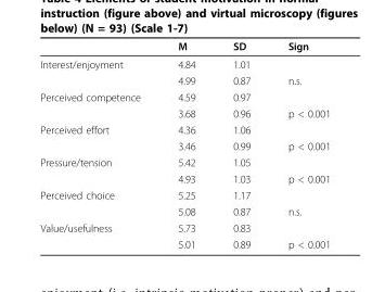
<table><thead><tr><td></td><td>M</td><td>SD</td><td>Sign</td></tr></thead><tbody><tr><td rowspan="2">Interest/enjoyment</td><td>4.84</td><td>1.01</td><td></td></tr><tr><td>4.99</td><td>0.87</td><td>n.s.</td></tr><tr><td rowspan="2">Perceived competence</td><td>4.59</td><td>0.97</td><td></td></tr><tr><td>3.68</td><td>0.96</td><td>p &lt; 0.001</td></tr><tr><td rowspan="2">Perceived effort</td><td>4.36</td><td>1.06</td><td></td></tr><tr><td>3.46</td><td>0.99</td><td>p &lt; 0.001</td></tr><tr><td rowspan="2">Pressure/tension</td><td>5.42</td><td>1.05</td><td></td></tr><tr><td>4.93</td><td>1.03</td><td>p &lt; 0.001</td></tr><tr><td rowspan="2">Perceived choice</td><td>5.25</td><td>1.17</td><td></td></tr><tr><td>5.08</td><td>0.87</td><td>n.s.</td></tr><tr><td rowspan="2">Value/usefulness</td><td>5.73</td><td>0.83</td><td></td></tr><tr><td>5.01</td><td>0.89</td><td>p &lt; 0.001</td></tr></tbody></table>